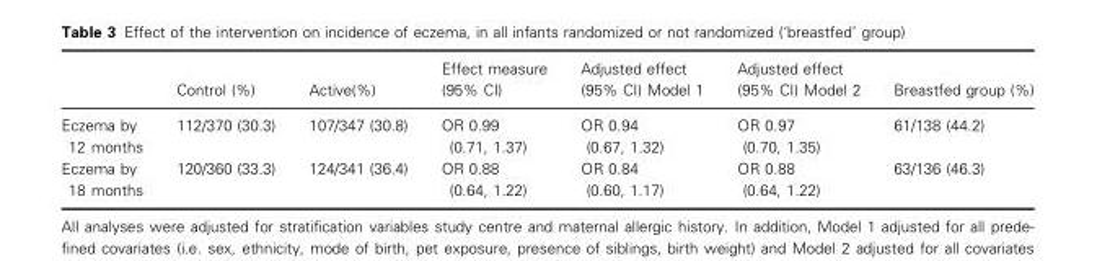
<table><thead><tr><td></td><td>Control (%)</td><td>Active(%)</td><td>Effect measure (95% CI)</td><td>Adjusted effect (95% CI) Model 1</td><td>Adjusted effect (95% CI) Model 2</td><td>Breastfed group (%)</td></tr></thead><tbody><tr><td>Eczema by 12 months</td><td>112/370 (30.3)</td><td>107/347 (30.8)</td><td>OR 0.99 (0.71, 1.37)</td><td>OR 0.94 (0.67, 1.32)</td><td>OR 0.97 (0.70, 1.35)</td><td>61/138 (44.2)</td></tr><tr><td>Eczema by 18 months</td><td>120/360 (33.3)</td><td>124/341 (36.4)</td><td>OR 0.88 (0.64, 1.22)</td><td>OR 0.84 (0.60, 1.17)</td><td>OR 0.88 (0.64, 1.22)</td><td>63/136 (46.3)</td></tr></tbody></table>